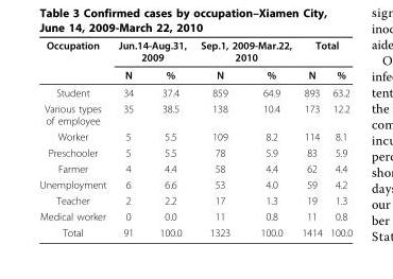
<table><thead><tr><td rowspan="2">Occupation</td><td colspan="2">Jun.14-Aug.31, 2009</td><td colspan="2">Sep.1, 2009-Mar.22, 2010</td><td colspan="2">Total</td></tr><tr><td>N</td><td>%</td><td>N</td><td>%</td><td>N</td><td>%</td></tr></thead><tbody><tr><td>Student</td><td>34</td><td>37.4</td><td>859</td><td>64.9</td><td>893</td><td>63.2</td></tr><tr><td>Various types of employee</td><td>35</td><td>38.5</td><td>138</td><td>10.4</td><td>173</td><td>12.2</td></tr><tr><td>Worker</td><td>5</td><td>5.5</td><td>109</td><td>8.2</td><td>114</td><td>8.1</td></tr><tr><td>Preschooler</td><td>5</td><td>5.5</td><td>78</td><td>5.9</td><td>83</td><td>5.9</td></tr><tr><td>Farmer</td><td>4</td><td>4.4</td><td>58</td><td>4.4</td><td>62</td><td>4.4</td></tr><tr><td>Unemployment</td><td>6</td><td>6.6</td><td>53</td><td>4.0</td><td>59</td><td>4.2</td></tr><tr><td>Teacher</td><td>2</td><td>2.2</td><td>17</td><td>1.3</td><td>19</td><td>1.3</td></tr><tr><td>Medical worker</td><td>0</td><td>0.0</td><td>11</td><td>0.8</td><td>11</td><td>0.8</td></tr><tr><td>Total</td><td>91</td><td>100.0</td><td>1323</td><td>100.0</td><td>1414</td><td>100.0</td></tr></tbody></table>